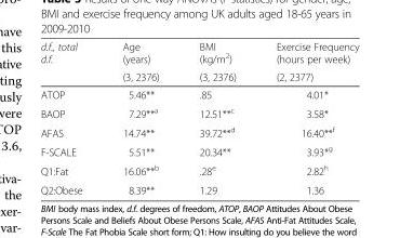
<table><thead><tr><td rowspan="2">d.f., total d.f.</td><td rowspan="2">Age (years) (3, 2376)</td><td rowspan="2">BMI (kg/m<sup>2</sup>) (3, 2376)</td><td rowspan="2">Exercise Frequency (hours per week) (2, 2377)</td></tr><tr></tr></thead><tbody><tr><td>ATOP</td><td>5.46**</td><td>.85</td><td>4.01*</td></tr><tr><td>BAOP</td><td>7.29**<sup>a</sup></td><td>12.51**<sup>c</sup></td><td>3.58*</td></tr><tr><td>AFAS</td><td>14.74**</td><td>39.72**<sup>d</sup></td><td>16.40**<sup>f</sup></td></tr><tr><td>F-SCALE</td><td>5.51**</td><td>20.34**</td><td>3.93*<sup>g</sup></td></tr><tr><td>Q1:Fat</td><td>16.06**<sup>b</sup></td><td>.28<sup>e</sup></td><td>2.82<sup>h</sup></td></tr><tr><td>Q2:Obese</td><td>8.39**</td><td>1.29</td><td>1.36</td></tr></tbody></table>